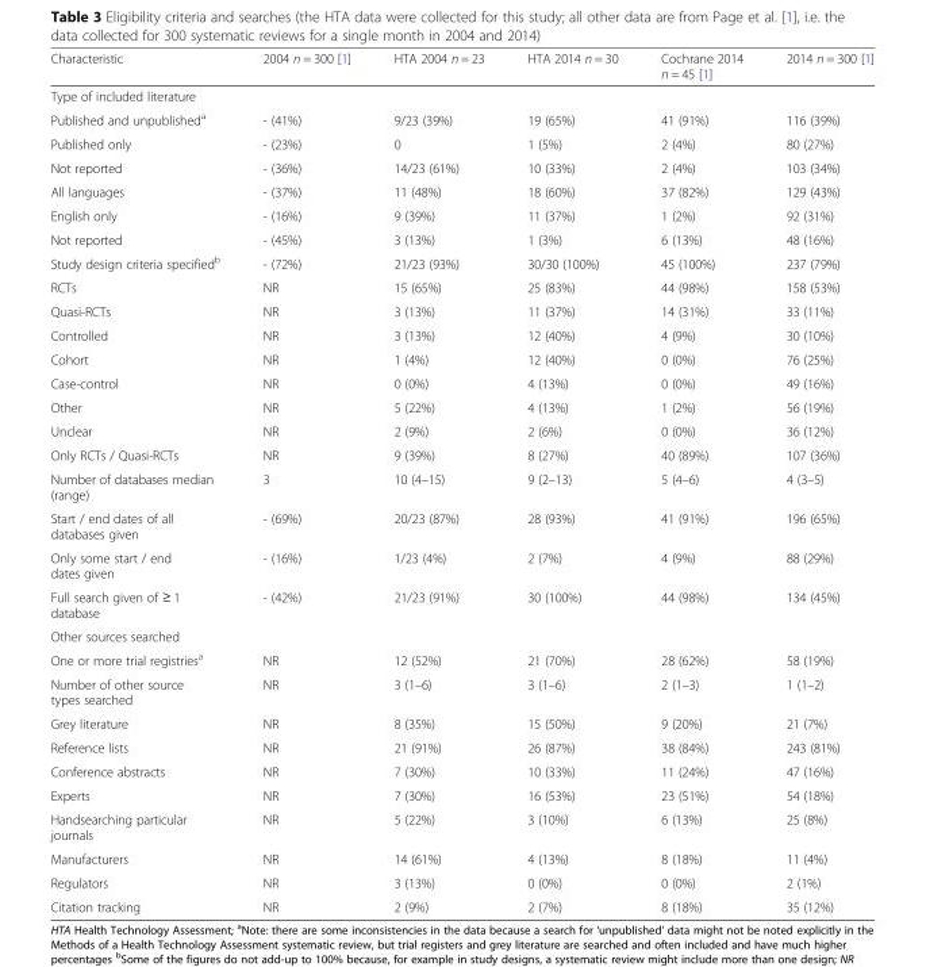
<table><thead><tr><td>Characteristic</td><td>2004 n = 300 [1]</td><td>HTA 2004 n = 23</td><td>HTA 2014 n = 30</td><td>Cochrane 2014 n = 45 [1]</td><td>2014 n = 300 [1]</td></tr></thead><tbody><tr><td colspan="6">Type of included literature</td></tr><tr><td>Published and unpublished<sup>a</sup></td><td>- (41%)</td><td>9/23 (39%)</td><td>19 (65%)</td><td>41 (91%)</td><td>116 (39%)</td></tr><tr><td>Published only</td><td>- (23%)</td><td>0</td><td>1 (5%)</td><td>2 (4%)</td><td>80 (27%)</td></tr><tr><td>Not reported</td><td>- (36%)</td><td>14/23 (61%)</td><td>10 (33%)</td><td>2 (4%)</td><td>103 (34%)</td></tr><tr><td>All languages</td><td>- (37%)</td><td>11 (48%)</td><td>18 (60%)</td><td>37 (82%)</td><td>129 (43%)</td></tr><tr><td>English only</td><td>- (16%)</td><td>9 (39%)</td><td>11 (37%)</td><td>1 (2%)</td><td>92 (31%)</td></tr><tr><td>Not reported</td><td>- (45%)</td><td>3 (13%)</td><td>1 (3%)</td><td>6 (13%)</td><td>48 (16%)</td></tr><tr><td>Study design criteria specified<sup>b</sup></td><td>- (72%)</td><td>21/23 (93%)</td><td>30/30 (100%)</td><td>45 (100%)</td><td>237 (79%)</td></tr><tr><td>RCTs</td><td>NR</td><td>15 (65%)</td><td>25 (83%)</td><td>44 (98%)</td><td>158 (53%)</td></tr><tr><td>Quasi-RCTs</td><td>NR</td><td>3 (13%)</td><td>11 (37%)</td><td>14 (31%)</td><td>33 (11%)</td></tr><tr><td>Controlled</td><td>NR</td><td>3 (13%)</td><td>12 (40%)</td><td>4 (9%)</td><td>30 (10%)</td></tr><tr><td>Cohort</td><td>NR</td><td>1 (4%)</td><td>12 (40%)</td><td>0 (0%)</td><td>76 (25%)</td></tr><tr><td>Case-control</td><td>NR</td><td>0 (0%)</td><td>4 (13%)</td><td>0 (0%)</td><td>49 (16%)</td></tr><tr><td>Other</td><td>NR</td><td>5 (22%)</td><td>4 (13%)</td><td>1 (2%)</td><td>56 (19%)</td></tr><tr><td>Unclear</td><td>NR</td><td>2 (9%)</td><td>2 (6%)</td><td>0 (0%)</td><td>36 (12%)</td></tr><tr><td>Only RCTs / Quasi-RCTs</td><td>NR</td><td>9 (39%)</td><td>8 (27%)</td><td>40 (89%)</td><td>107 (36%)</td></tr><tr><td>Number of databases median (range)</td><td>3</td><td>10 (4–15)</td><td>9 (2–13)</td><td>5 (4–6)</td><td>4 (3–5)</td></tr><tr><td>Start / end dates of all databases given</td><td>- (69%)</td><td>20/23 (87%)</td><td>28 (93%)</td><td>41 (91%)</td><td>196 (65%)</td></tr><tr><td>Only some start / end dates given</td><td>- (16%)</td><td>1/23 (4%)</td><td>2 (7%)</td><td>4 (9%)</td><td>88 (29%)</td></tr><tr><td>Full search given of ≥ 1 database</td><td>- (42%)</td><td>21/23 (91%)</td><td>30 (100%)</td><td>44 (98%)</td><td>134 (45%)</td></tr><tr><td colspan="6">Other sources searched</td></tr><tr><td>One or more trial registries<sup>a</sup></td><td>NR</td><td>12 (52%)</td><td>21 (70%)</td><td>28 (62%)</td><td>58 (19%)</td></tr><tr><td>Number of other source types searched</td><td>NR</td><td>3 (1–6)</td><td>3 (1–6)</td><td>2 (1–3)</td><td>1 (1–2)</td></tr><tr><td>Grey literature</td><td>NR</td><td>8 (35%)</td><td>15 (50%)</td><td>9 (20%)</td><td>21 (7%)</td></tr><tr><td>Reference lists</td><td>NR</td><td>21 (91%)</td><td>26 (87%)</td><td>38 (84%)</td><td>243 (81%)</td></tr><tr><td>Conference abstracts</td><td>NR</td><td>7 (30%)</td><td>10 (33%)</td><td>11 (24%)</td><td>47 (16%)</td></tr><tr><td>Experts</td><td>NR</td><td>7 (30%)</td><td>16 (53%)</td><td>23 (51%)</td><td>54 (18%)</td></tr><tr><td>Handsearching particular journals</td><td>NR</td><td>5 (22%)</td><td>3 (10%)</td><td>6 (13%)</td><td>25 (8%)</td></tr><tr><td>Manufacturers</td><td>NR</td><td>14 (61%)</td><td>4 (13%)</td><td>8 (18%)</td><td>11 (4%)</td></tr><tr><td>Regulators</td><td>NR</td><td>3 (13%)</td><td>0 (0%)</td><td>0 (0%)</td><td>2 (1%)</td></tr><tr><td>Citation tracking</td><td>NR</td><td>2 (9%)</td><td>2 (7%)</td><td>8 (18%)</td><td>35 (12%)</td></tr></tbody></table>